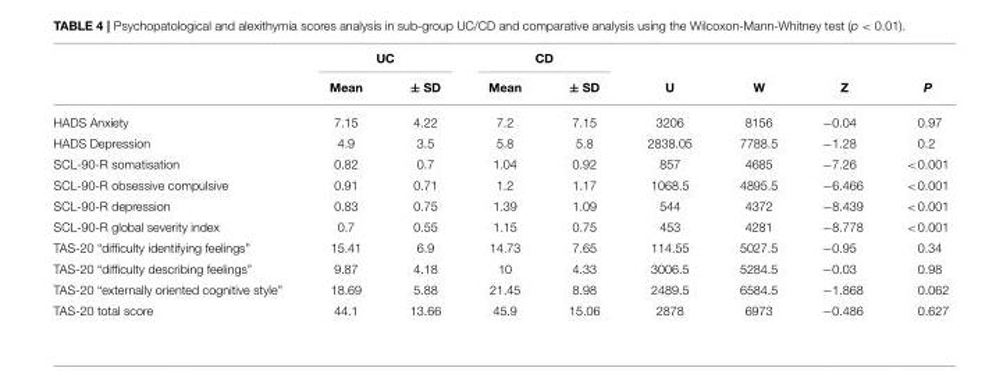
<table><thead><tr><td rowspan="2"></td><td colspan="2">UC</td><td colspan="2">CD</td><td rowspan="2">U</td><td rowspan="2">W</td><td rowspan="2">Z</td><td rowspan="2">P</td></tr><tr><td>Mean</td><td>± SD</td><td>Mean</td><td>± SD</td></tr></thead><tbody><tr><td>HADS Anxiety</td><td>7.15</td><td>4.22</td><td>7.2</td><td>7.15</td><td>3206</td><td>8156</td><td>−0.04</td><td>0.97</td></tr><tr><td>HADS Depression</td><td>4.9</td><td>3.5</td><td>5.8</td><td>5.8</td><td>2838.05</td><td>7788.5</td><td>−1.28</td><td>0.2</td></tr><tr><td>SCL-90-R somatisation</td><td>0.82</td><td>0.7</td><td>1.04</td><td>0.92</td><td>857</td><td>4685</td><td>−7.26</td><td>&lt;0.001</td></tr><tr><td>SCL-90-R obsessive compulsive</td><td>0.91</td><td>0.71</td><td>1.2</td><td>1.17</td><td>1068.5</td><td>4895.5</td><td>−6.466</td><td>&lt;0.001</td></tr><tr><td>SCL-90-R depression</td><td>0.83</td><td>0.75</td><td>1.39</td><td>1.09</td><td>544</td><td>4372</td><td>−8.439</td><td>&lt;0.001</td></tr><tr><td>SCL-90-R global severity index</td><td>0.7</td><td>0.55</td><td>1.15</td><td>0.75</td><td>453</td><td>4281</td><td>−8.778</td><td>&lt;0.001</td></tr><tr><td>TAS-20 “difficulty identifying feelings”</td><td>15.41</td><td>6.9</td><td>14.73</td><td>7.65</td><td>114.55</td><td>5027.5</td><td>−0.95</td><td>0.34</td></tr><tr><td>TAS-20 “difficulty describing feelings”</td><td>9.87</td><td>4.18</td><td>10</td><td>4.33</td><td>3006.5</td><td>5284.5</td><td>−0.03</td><td>0.98</td></tr><tr><td>TAS-20 “externally oriented cognitive style”</td><td>18.69</td><td>5.88</td><td>21.45</td><td>8.98</td><td>2489.5</td><td>6584.5</td><td>−1.868</td><td>0.062</td></tr><tr><td>TAS-20 total score</td><td>44.1</td><td>13.66</td><td>45.9</td><td>15.06</td><td>2878</td><td>6973</td><td>−0.486</td><td>0.627</td></tr></tbody></table>